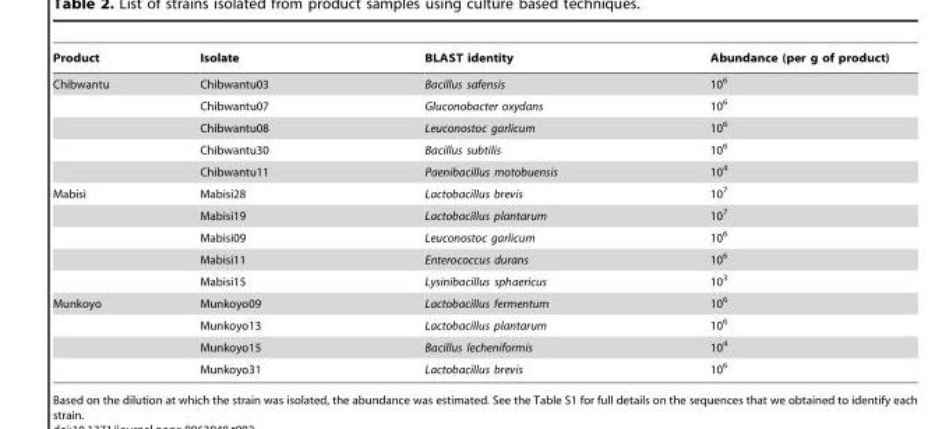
<table><thead><tr><td>Product</td><td>Isolate</td><td>BLAST identity</td><td>Abundance (per g of product)</td></tr></thead><tbody><tr><td rowspan="5">Chibwantu</td><td>Chibwantu03</td><td>Bacillus safensis</td><td>10<sup>6</sup></td></tr><tr><td>Chibwantu07</td><td>Gluconobacter oxydans</td><td>10<sup>6</sup></td></tr><tr><td>Chibwantu08</td><td>Leuconostoc garlicum</td><td>10<sup>6</sup></td></tr><tr><td>Chibwantu30</td><td>Bacillus subtilis</td><td>10<sup>6</sup></td></tr><tr><td>Chibwantu11</td><td>Paenibacillus motobuensis</td><td>10<sup>4</sup></td></tr><tr><td rowspan="5">Mabisi</td><td>Mabisi28</td><td>Lactobacillus brevis</td><td>10<sup>7</sup></td></tr><tr><td>Mabisi19</td><td>Lactobacillus plantarum</td><td>10<sup>7</sup></td></tr><tr><td>Mabisi09</td><td>Leuconostoc garlicum</td><td>10<sup>6</sup></td></tr><tr><td>Mabisi11</td><td>Enterococcus durans</td><td>10<sup>6</sup></td></tr><tr><td>Mabisi15</td><td>Lysinibacillus sphaericus</td><td>10<sup>3</sup></td></tr><tr><td rowspan="4">Munkoyo</td><td>Munkoyo09</td><td>Lactobacillus fermentum</td><td>10<sup>6</sup></td></tr><tr><td>Munkoyo13</td><td>Lactobacillus plantarum</td><td>10<sup>6</sup></td></tr><tr><td>Munkoyo15</td><td>Bacillus lecheniformis</td><td>10<sup>4</sup></td></tr><tr><td>Munkoyo31</td><td>Lactobacillus brevis</td><td>10<sup>6</sup></td></tr></tbody></table>